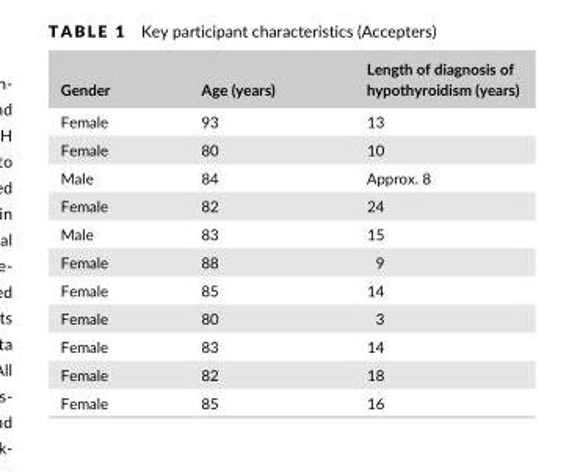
<table><thead><tr><td>Gender</td><td>Age (years)</td><td>Length of diagnosis of hypothyroidism (years)</td></tr></thead><tbody><tr><td>Female</td><td>93</td><td>13</td></tr><tr><td>Female</td><td>80</td><td>10</td></tr><tr><td>Male</td><td>84</td><td>Approx. 8</td></tr><tr><td>Female</td><td>82</td><td>24</td></tr><tr><td>Male</td><td>83</td><td>15</td></tr><tr><td>Female</td><td>88</td><td>9</td></tr><tr><td>Female</td><td>85</td><td>14</td></tr><tr><td>Female</td><td>80</td><td>3</td></tr><tr><td>Female</td><td>83</td><td>14</td></tr><tr><td>Female</td><td>82</td><td>18</td></tr><tr><td>Female</td><td>85</td><td>16</td></tr></tbody></table>